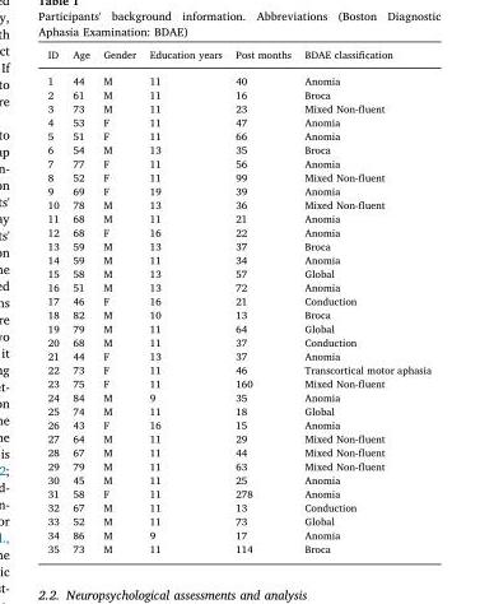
<table><thead><tr><td>ID</td><td>Age</td><td>Gender</td><td>Education years</td><td>Post months</td><td>BDAE classification</td></tr></thead><tbody><tr><td>1</td><td>44</td><td>M</td><td>11</td><td>40</td><td>Anomia</td></tr><tr><td>2</td><td>61</td><td>M</td><td>11</td><td>16</td><td>Broca</td></tr><tr><td>3</td><td>73</td><td>M</td><td>11</td><td>23</td><td>Mixed Non-fluent</td></tr><tr><td>4</td><td>53</td><td>F</td><td>11</td><td>47</td><td>Anomia</td></tr><tr><td>5</td><td>51</td><td>F</td><td>11</td><td>66</td><td>Anomia</td></tr><tr><td>6</td><td>54</td><td>M</td><td>13</td><td>35</td><td>Broca</td></tr><tr><td>7</td><td>77</td><td>F</td><td>11</td><td>56</td><td>Anomia</td></tr><tr><td>8</td><td>52</td><td>F</td><td>11</td><td>99</td><td>Mixed Non-fluent</td></tr><tr><td>9</td><td>69</td><td>F</td><td>19</td><td>39</td><td>Anomia</td></tr><tr><td>10</td><td>78</td><td>M</td><td>13</td><td>36</td><td>Mixed Non-fluent</td></tr><tr><td>11</td><td>68</td><td>M</td><td>11</td><td>21</td><td>Anomia</td></tr><tr><td>12</td><td>68</td><td>F</td><td>16</td><td>22</td><td>Anomia</td></tr><tr><td>13</td><td>59</td><td>M</td><td>13</td><td>37</td><td>Broca</td></tr><tr><td>14</td><td>59</td><td>M</td><td>11</td><td>34</td><td>Anomia</td></tr><tr><td>15</td><td>58</td><td>M</td><td>13</td><td>57</td><td>Global</td></tr><tr><td>16</td><td>51</td><td>M</td><td>13</td><td>72</td><td>Anomia</td></tr><tr><td>17</td><td>46</td><td>F</td><td>16</td><td>21</td><td>Conduction</td></tr><tr><td>18</td><td>82</td><td>M</td><td>10</td><td>13</td><td>Broca</td></tr><tr><td>19</td><td>79</td><td>M</td><td>11</td><td>64</td><td>Global</td></tr><tr><td>20</td><td>68</td><td>M</td><td>11</td><td>37</td><td>Conduction</td></tr><tr><td>21</td><td>44</td><td>F</td><td>13</td><td>37</td><td>Anomia</td></tr><tr><td>22</td><td>73</td><td>F</td><td>11</td><td>46</td><td>Transcortical motor aphasia</td></tr><tr><td>23</td><td>75</td><td>F</td><td>11</td><td>160</td><td>Mixed Non-fluent</td></tr><tr><td>24</td><td>84</td><td>M</td><td>9</td><td>35</td><td>Anomia</td></tr><tr><td>25</td><td>74</td><td>M</td><td>11</td><td>18</td><td>Global</td></tr><tr><td>26</td><td>43</td><td>F</td><td>16</td><td>15</td><td>Anomia</td></tr><tr><td>27</td><td>64</td><td>M</td><td>11</td><td>29</td><td>Mixed Non-fluent</td></tr><tr><td>28</td><td>67</td><td>M</td><td>11</td><td>44</td><td>Mixed Non-fluent</td></tr><tr><td>29</td><td>79</td><td>M</td><td>11</td><td>63</td><td>Mixed Non-fluent</td></tr><tr><td>30</td><td>45</td><td>M</td><td>11</td><td>25</td><td>Anomia</td></tr><tr><td>31</td><td>58</td><td>F</td><td>11</td><td>278</td><td>Anomia</td></tr><tr><td>32</td><td>67</td><td>M</td><td>11</td><td>13</td><td>Conduction</td></tr><tr><td>33</td><td>52</td><td>M</td><td>11</td><td>73</td><td>Global</td></tr><tr><td>34</td><td>86</td><td>M</td><td>9</td><td>17</td><td>Anomia</td></tr><tr><td>35</td><td>73</td><td>M</td><td>11</td><td>114</td><td>Broca</td></tr></tbody></table>